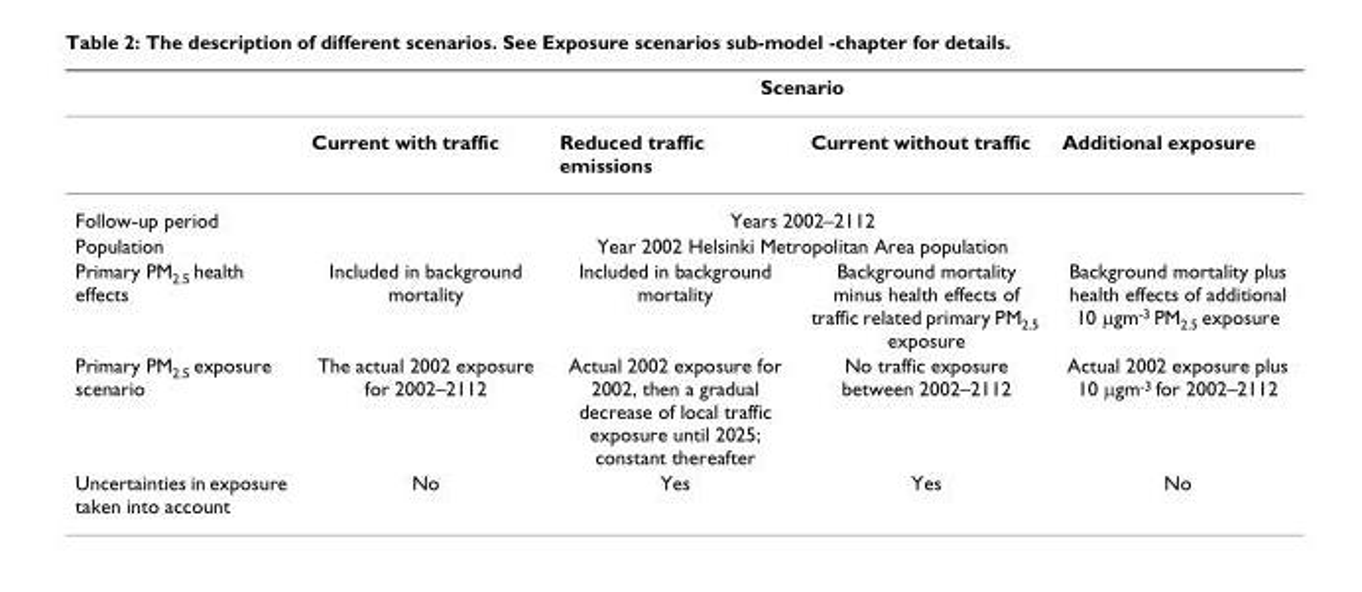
<table><thead><tr><td rowspan="2"></td><td colspan="4">Scenario</td></tr><tr><td>Current with traffic</td><td>Reduced traffic emissions</td><td>Current without traffic</td><td>Additional exposure</td></tr></thead><tbody><tr><td>Follow-up period</td><td colspan="4">Years 2002–2112</td></tr><tr><td>Population</td><td colspan="4">Year 2002 Helsinki Metropolitan Area population</td></tr><tr><td>Primary PM<sub>2.5</sub> health effects</td><td>Included in background mortality</td><td>Included in background mortality</td><td>Background mortality minus health effects of traffic related primary PM<sub>2.5</sub> exposure</td><td>Background mortality plus health effects of additional 10 µgm<sup>-3</sup> PM<sub>2.5</sub> exposure</td></tr><tr><td>Primary PM<sub>2.5</sub> exposure scenario</td><td>The actual 2002 exposure for 2002–2112</td><td>Actual 2002 exposure for 2002, then a gradual decrease of local traffic exposure until 2025; constant thereafter</td><td>No traffic exposure between 2002–2112</td><td>Actual 2002 exposure plus 10 µgm<sup>-3</sup> for 2002–2112</td></tr><tr><td>Uncertainties in exposure taken into account</td><td>No</td><td>Yes</td><td>Yes</td><td>No</td></tr></tbody></table>